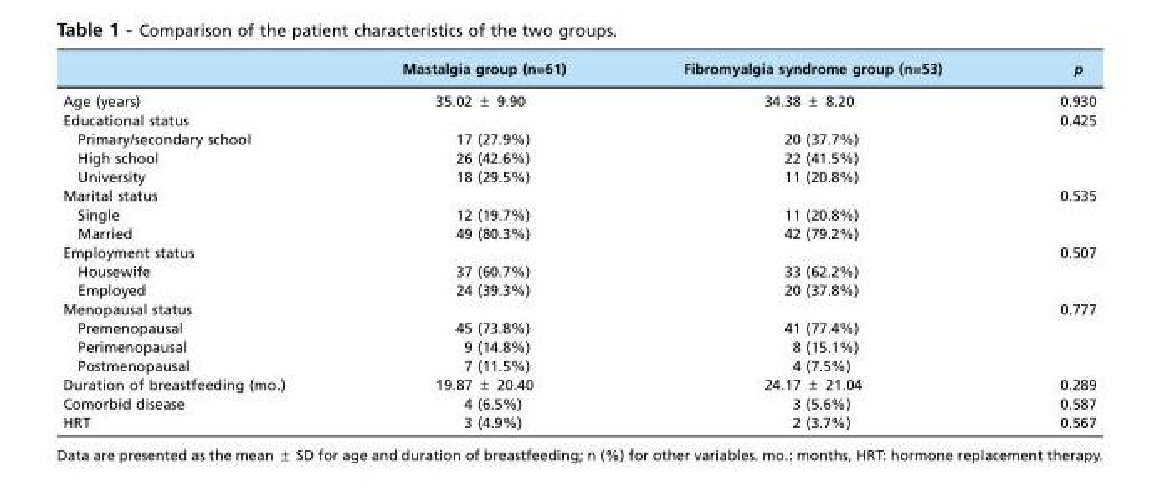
<table><thead><tr><td></td><td>Mastalgia group (n=61)</td><td>Fibromyalgia syndrome group (n=53)</td><td>p</td></tr></thead><tbody><tr><td>Age (years)</td><td>35.02 ± 9.90</td><td>34.38 ± 8.20</td><td>0.930</td></tr><tr><td>Educational status</td><td></td><td></td><td>0.425</td></tr><tr><td>Primary/secondary school</td><td>17 (27.9%)</td><td>20 (37.7%)</td><td></td></tr><tr><td>High school</td><td>26 (42.6%)</td><td>22 (41.5%)</td><td></td></tr><tr><td>University</td><td>18 (29.5%)</td><td>11 (20.8%)</td><td></td></tr><tr><td>Marital status</td><td></td><td></td><td>0.535</td></tr><tr><td>Single</td><td>12 (19.7%)</td><td>11 (20.8%)</td><td></td></tr><tr><td>Married</td><td>49 (80.3%)</td><td>42 (79.2%)</td><td></td></tr><tr><td>Employment status</td><td></td><td></td><td>0.507</td></tr><tr><td>Housewife</td><td>37 (60.7%)</td><td>33 (62.2%)</td><td></td></tr><tr><td>Employed</td><td>24 (39.3%)</td><td>20 (37.8%)</td><td></td></tr><tr><td>Menopausal status</td><td></td><td></td><td>0.777</td></tr><tr><td>Premenopausal</td><td>45 (73.8%)</td><td>41 (77.4%)</td><td></td></tr><tr><td>Perimenopausal</td><td>9 (14.8%)</td><td>8 (15.1%)</td><td></td></tr><tr><td>Postmenopausal</td><td>7 (11.5%)</td><td>4 (7.5%)</td><td></td></tr><tr><td>Duration of breastfeeding (mo.)</td><td>19.87 ± 20.40</td><td>24.17 ± 21.04</td><td>0.289</td></tr><tr><td>Comorbid disease</td><td>4 (6.5%)</td><td>3 (5.6%)</td><td>0.587</td></tr><tr><td>HRT</td><td>3 (4.9%)</td><td>2 (3.7%)</td><td>0.567</td></tr></tbody></table>